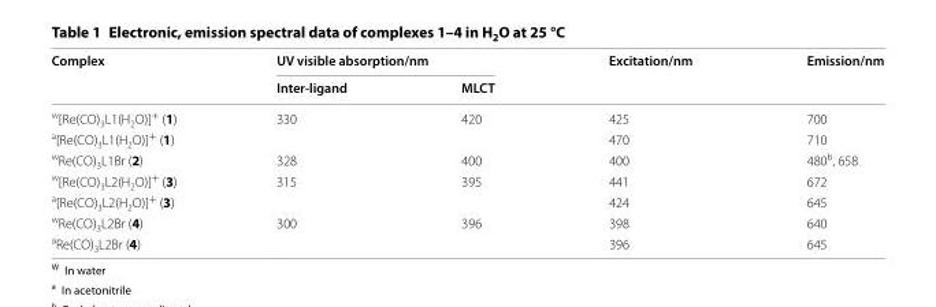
<table><thead><tr><td rowspan="2">Complex</td><td colspan="2">UV visible absorption/nm</td><td rowspan="2">Excitation/nm</td><td rowspan="2">Emission/nm</td></tr><tr><td>Inter‑ligand</td><td>MLCT</td></tr></thead><tbody><tr><td><sup>w</sup>[Re(CO)<sub>3</sub>L1(H<sub>2</sub>O)]<sup>+</sup> (1)</td><td>330</td><td>420</td><td>425</td><td>700</td></tr><tr><td><sup>a</sup>[Re(CO)<sub>3</sub>L1(H<sub>2</sub>O)]<sup>+</sup> (1)</td><td></td><td></td><td>470</td><td>710</td></tr><tr><td><sup>w</sup>Re(CO)<sub>3</sub>L1Br (2)</td><td>328</td><td>400</td><td>400</td><td>480<sup>b</sup>, 658</td></tr><tr><td><sup>w</sup>[Re(CO)<sub>3</sub>L2(H<sub>2</sub>O)]<sup>+</sup> (3)</td><td>315</td><td>395</td><td>441</td><td>672</td></tr><tr><td><sup>a</sup>[Re(CO)<sub>3</sub>L2(H<sub>2</sub>O)]<sup>+</sup> (3)</td><td></td><td></td><td>424</td><td>645</td></tr><tr><td><sup>w</sup>Re(CO)<sub>3</sub>L2Br (4)</td><td>300</td><td>396</td><td>398</td><td>640</td></tr><tr><td><sup>a</sup>Re(CO)<sub>3</sub>L2Br (4)</td><td></td><td></td><td>396</td><td>645</td></tr></tbody></table>